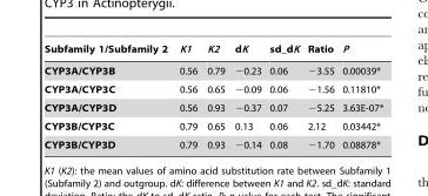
<table><thead><tr><td>Subfamily 1/Subfamily 2</td><td>K1</td><td>K2</td><td>dK</td><td>sd_dK</td><td>Ratio</td><td>P</td></tr></thead><tbody><tr><td>CYP3A/CYP3B</td><td>0.56</td><td>0.79</td><td>−0.23</td><td>0.06</td><td>−3.55</td><td>0.00039*</td></tr><tr><td>CYP3A/CYP3C</td><td>0.56</td><td>0.65</td><td>−0.09</td><td>0.06</td><td>−1.56</td><td>0.11810*</td></tr><tr><td>CYP3A/CYP3D</td><td>0.56</td><td>0.93</td><td>−0.37</td><td>0.07</td><td>−5.25</td><td>3.63E-07*</td></tr><tr><td>CYP3B/CYP3C</td><td>0.79</td><td>0.65</td><td>0.13</td><td>0.06</td><td>2.12</td><td>0.03442*</td></tr><tr><td>CYP3B/CYP3D</td><td>0.79</td><td>0.93</td><td>−0.14</td><td>0.08</td><td>−1.70</td><td>0.08878*</td></tr></tbody></table>